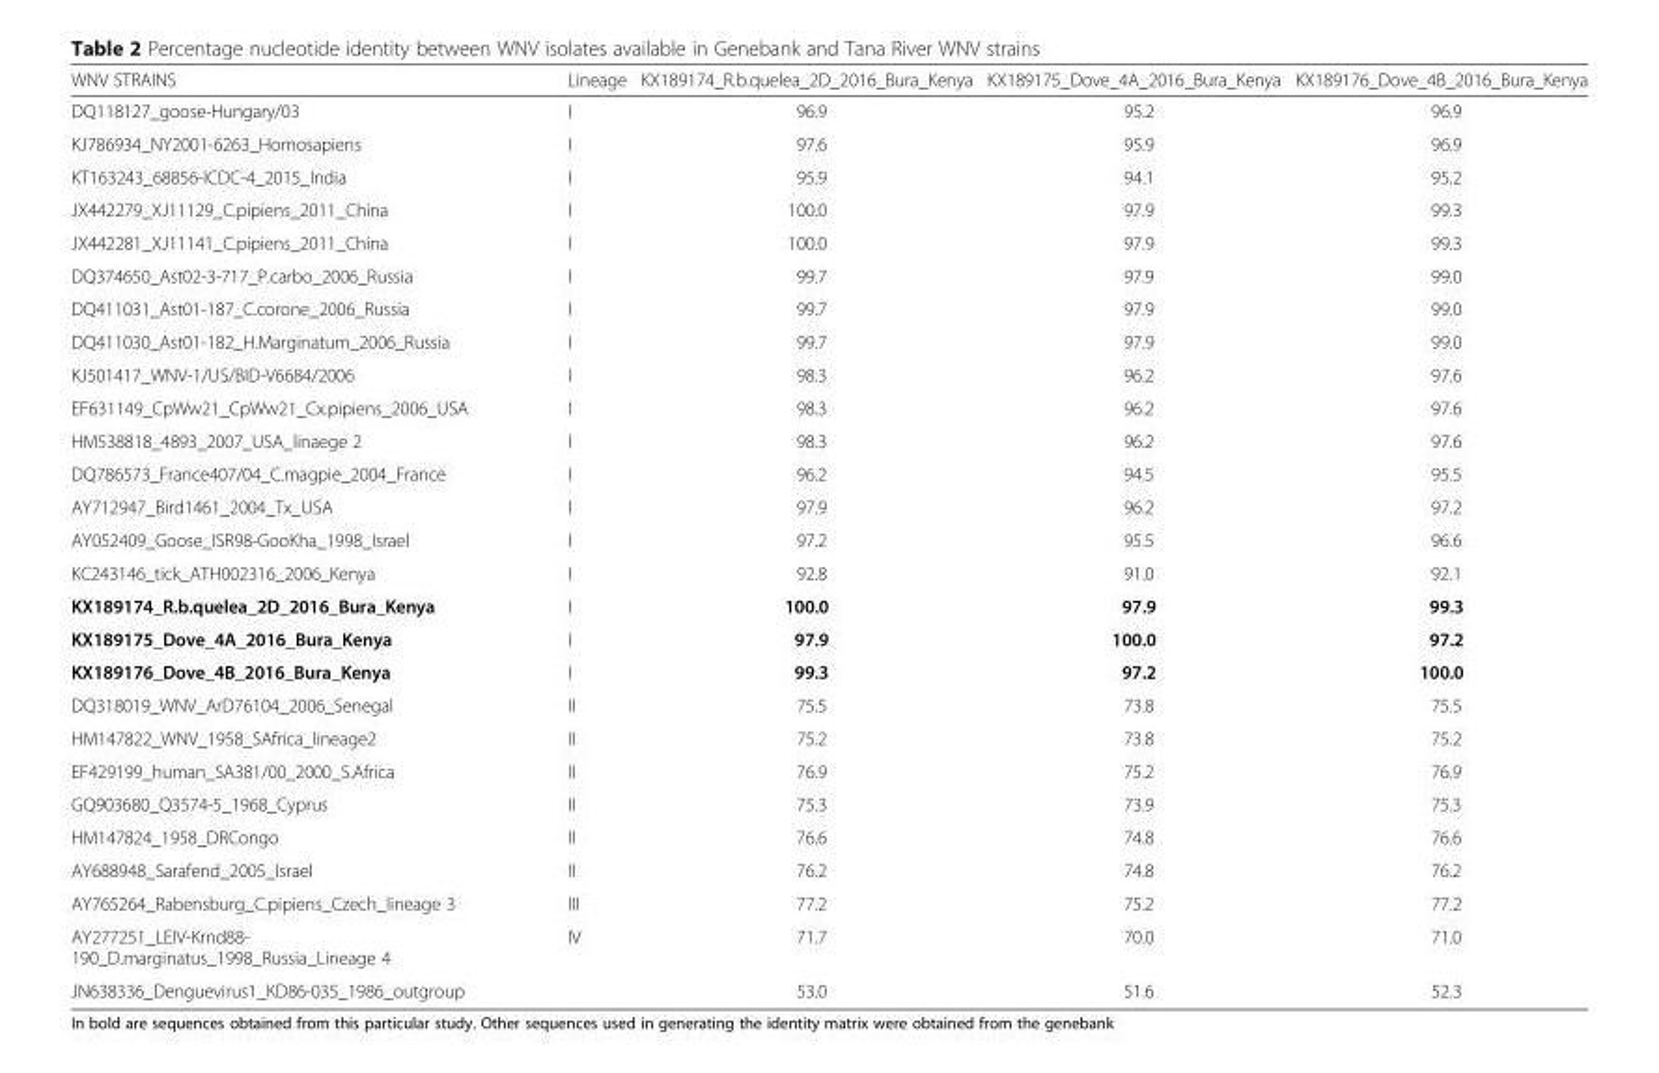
<table><thead><tr><td>WNV STRAINS</td><td>Lineage</td><td>KX189174_R.b.quelea_2D_2016_Bura_Kenya</td><td>KX189175_Dove_4A_2016_Bura_Kenya</td><td>KX189176_Dove_4B_2016_Bura_Kenya</td></tr></thead><tbody><tr><td>DQ118127_goose-Hungary/03</td><td>I</td><td>96.9</td><td>95.2</td><td>96.9</td></tr><tr><td>KJ786934_NY2001-6263_Homosapiens</td><td>I</td><td>97.6</td><td>95.9</td><td>96.9</td></tr><tr><td>KT163243_68856-ICDC-4_2015_India</td><td>I</td><td>95.9</td><td>94.1</td><td>95.2</td></tr><tr><td>JX442279_XJ11129_C.pipiens_2011_China</td><td>I</td><td>100.0</td><td>97.9</td><td>99.3</td></tr><tr><td>JX442281_XJ11141_C.pipiens_2011_China</td><td>I</td><td>100.0</td><td>97.9</td><td>99.3</td></tr><tr><td>DQ374650_Ast02-3-717_P.carbo_2006_Russia</td><td>I</td><td>99.7</td><td>97.9</td><td>99.0</td></tr><tr><td>DQ411031_Ast01-187_C.corone_2006_Russia</td><td>I</td><td>99.7</td><td>97.9</td><td>99.0</td></tr><tr><td>DQ411030_Ast01-182_H.Marginatum_2006_Russia</td><td>I</td><td>99.7</td><td>97.9</td><td>99.0</td></tr><tr><td>KJ501417_WNV-1/US/BID-V6684/2006</td><td>I</td><td>98.3</td><td>96.2</td><td>97.6</td></tr><tr><td>EF631149_CpWw21_CpWw21_Cx.pipiens_2006_USA</td><td>I</td><td>98.3</td><td>96.2</td><td>97.6</td></tr><tr><td>HM538818_4893_2007_USA_linaege 2</td><td>I</td><td>98.3</td><td>96.2</td><td>97.6</td></tr><tr><td>DQ786573_France407/04_C.magpie_2004_France</td><td>I</td><td>96.2</td><td>94.5</td><td>95.5</td></tr><tr><td>AY712947_Bird1461_2004_Tx_USA</td><td>I</td><td>97.9</td><td>96.2</td><td>97.2</td></tr><tr><td>AY052409_Goose_ISR98-GooKha_1998_Israel</td><td>I</td><td>97.2</td><td>95.5</td><td>96.6</td></tr><tr><td>KC243146_tick_ATH002316_2006_Kenya</td><td>I</td><td>92.8</td><td>91.0</td><td>92.1</td></tr><tr><td>KX189174_R.b.quelea_2D_2016_Bura_Kenya</td><td>I</td><td>100.0</td><td>97.9</td><td>99.3</td></tr><tr><td>KX189175_Dove_4A_2016_Bura_Kenya</td><td>I</td><td>97.9</td><td>100.0</td><td>97.2</td></tr><tr><td>KX189176_Dove_4B_2016_Bura_Kenya</td><td>I</td><td>99.3</td><td>97.2</td><td>100.0</td></tr><tr><td>DQ318019_WNV_ArD76104_2006_Senegal</td><td>II</td><td>75.5</td><td>73.8</td><td>75.5</td></tr><tr><td>HM147822_WNV_1958_SAfrica_lineage2</td><td>II</td><td>75.2</td><td>73.8</td><td>75.2</td></tr><tr><td>EF429199_human_SA381/00_2000_S.Africa</td><td>II</td><td>76.9</td><td>75.2</td><td>76.9</td></tr><tr><td>GQ903680_Q3574-5_1968_Cyprus</td><td>II</td><td>75.3</td><td>73.9</td><td>75.3</td></tr><tr><td>HM147824_1958_DRCongo</td><td>II</td><td>76.6</td><td>74.8</td><td>76.6</td></tr><tr><td>AY688948_Sarafend_2005_Israel</td><td>II</td><td>76.2</td><td>74.8</td><td>76.2</td></tr><tr><td>AY765264_Rabensburg_C.pipiens_Czech_lineage 3</td><td>III</td><td>77.2</td><td>75.2</td><td>77.2</td></tr><tr><td>AY277251_LEIV-Krnd88- 190_D.marginatus_1998_Russia_Lineage 4</td><td>IV</td><td>71.7</td><td>70.0</td><td>71.0</td></tr><tr><td>JN638336_Denguevirus1_KD86-035_1986_outgroup</td><td></td><td>53.0</td><td>51.6</td><td>52.3</td></tr></tbody></table>